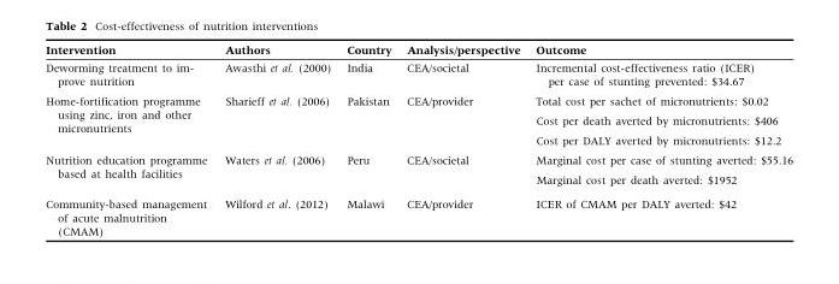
<table><thead><tr><td>Intervention</td><td>Authors</td><td>Country</td><td>Analysis/perspective</td><td>Outcome</td></tr></thead><tbody><tr><td>Deworming treatment to im- prove nutrition</td><td>Awasthi et al. (2000)</td><td>India</td><td>CEA/societal</td><td>Incremental cost-effectiveness ratio (ICER) per case of stunting prevented: $34.67</td></tr><tr><td rowspan="3">Home-fortification programme using zinc, iron and other micronutrients</td><td rowspan="3">Sharieff et al. (2006)</td><td rowspan="3">Pakistan</td><td rowspan="3">CEA/provider</td><td>Total cost per sachet of micronutrients: $0.02</td></tr><tr><td>Cost per death averted by micronutrients: $406</td></tr><tr><td>Cost per DALY averted by micronutrients: $12.2</td></tr><tr><td rowspan="2">Nutrition education programme based at health facilities</td><td rowspan="2">Waters et al. (2006)</td><td rowspan="2">Peru</td><td rowspan="2">CEA/societal</td><td>Marginal cost per case of stunting averted: $55.16</td></tr><tr><td>Marginal cost per death averted: $1952</td></tr><tr><td>Community-based management of acute malnutrition (CMAM)</td><td>Wilford et al. (2012)</td><td>Malawi</td><td>CEA/provider</td><td>ICER of CMAM per DALY averted: $42</td></tr></tbody></table>